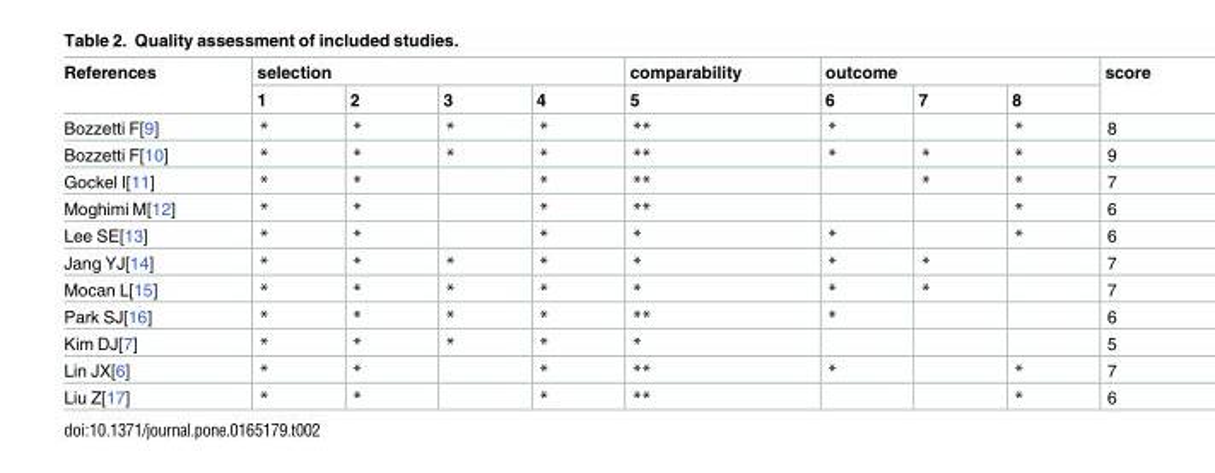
<table><thead><tr><td rowspan="2">References</td><td colspan="4">selection</td><td rowspan="2">comparability 5</td><td colspan="3">outcome</td><td rowspan="2">score</td></tr><tr><td>1</td><td>2</td><td>3</td><td>4</td><td>6</td><td>7</td><td>8</td></tr></thead><tbody><tr><td>Bozzetti F[9]</td><td>*</td><td>*</td><td>*</td><td>*</td><td>**</td><td>*</td><td></td><td>*</td><td>8</td></tr><tr><td>Bozzetti F[10]</td><td>*</td><td>*</td><td>*</td><td>*</td><td>**</td><td>*</td><td>*</td><td>*</td><td>9</td></tr><tr><td>Gockel I[11]</td><td>*</td><td>*</td><td></td><td>*</td><td>**</td><td></td><td>*</td><td>*</td><td>7</td></tr><tr><td>Moghimi M[12]</td><td>*</td><td>*</td><td></td><td>*</td><td>**</td><td></td><td></td><td>*</td><td>6</td></tr><tr><td>Lee SE[13]</td><td>*</td><td>*</td><td></td><td>*</td><td>*</td><td>*</td><td></td><td>*</td><td>6</td></tr><tr><td>Jang YJ[14]</td><td>*</td><td>*</td><td>*</td><td>*</td><td>*</td><td>*</td><td>*</td><td></td><td>7</td></tr><tr><td>Mocan L[15]</td><td>*</td><td>*</td><td>*</td><td>*</td><td>*</td><td>*</td><td>*</td><td></td><td>7</td></tr><tr><td>Park SJ[16]</td><td>*</td><td>*</td><td>*</td><td>*</td><td>**</td><td>*</td><td></td><td></td><td>6</td></tr><tr><td>Kim DJ[7]</td><td>*</td><td>*</td><td>*</td><td>*</td><td>*</td><td></td><td></td><td></td><td>5</td></tr><tr><td>Lin JX[6]</td><td>*</td><td>*</td><td></td><td>*</td><td>**</td><td>*</td><td></td><td>*</td><td>7</td></tr><tr><td>Liu Z[17]</td><td>*</td><td>*</td><td></td><td>*</td><td>**</td><td></td><td></td><td>*</td><td>6</td></tr></tbody></table>